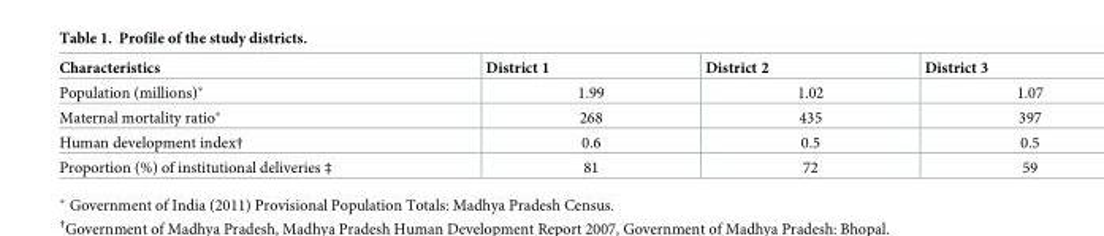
<table><thead><tr><td>Characteristics</td><td>District 1</td><td>District 2</td><td>District 3</td></tr></thead><tbody><tr><td>Population (millions)*</td><td>1.99</td><td>1.02</td><td>1.07</td></tr><tr><td>Maternal mortality ratio*</td><td>268</td><td>435</td><td>397</td></tr><tr><td>Human development index†</td><td>0.6</td><td>0.5</td><td>0.5</td></tr><tr><td>Proportion (%) of institutional deliveries ‡</td><td>81</td><td>72</td><td>59</td></tr></tbody></table>